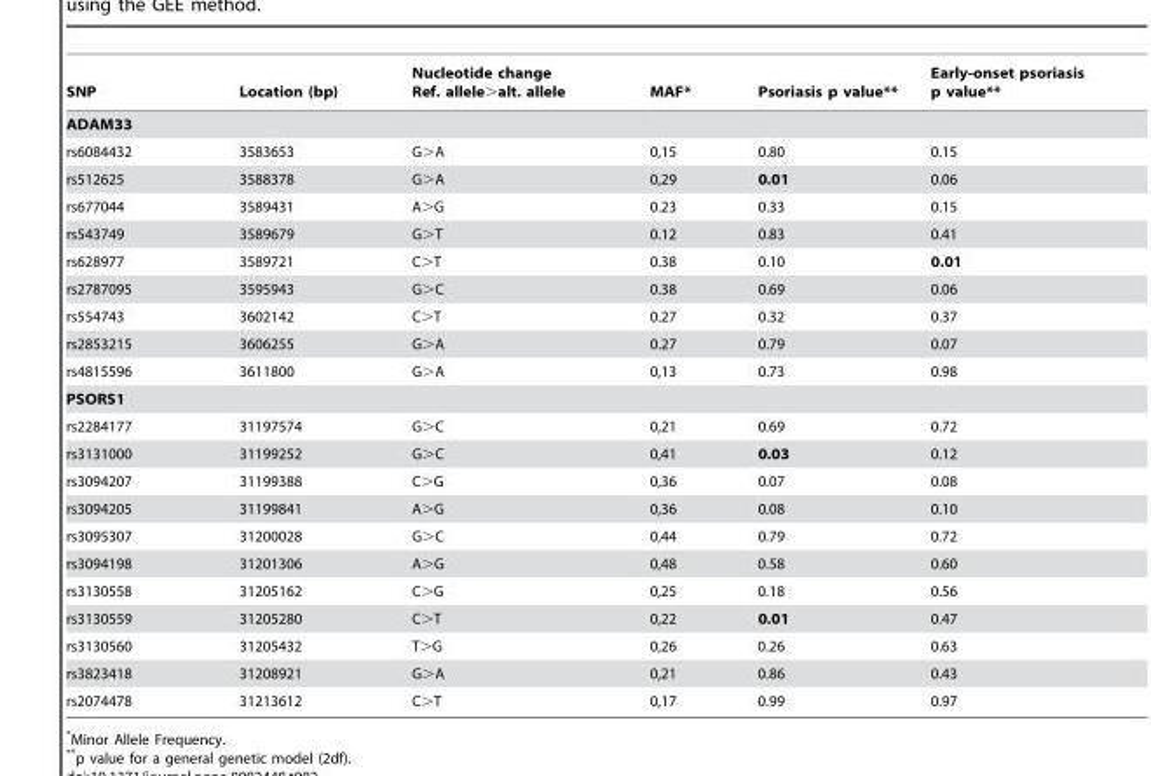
<table><thead><tr><td>SNP</td><td>Location (bp)</td><td>Nucleotide change Ref. allele&gt;alt. allele</td><td>MAF*</td><td>Psoriasis p value**</td><td>Early-onset psoriasis p value**</td></tr></thead><tbody><tr><td colspan="6">ADAM33</td></tr><tr><td>rs6084432</td><td>3583653</td><td>G&gt;A</td><td>0,15</td><td>0.80</td><td>0.15</td></tr><tr><td>rs512625</td><td>3588378</td><td>G&gt;A</td><td>0,29</td><td>0.01</td><td>0.06</td></tr><tr><td>rs677044</td><td>3589431</td><td>A&gt;G</td><td>0.23</td><td>0.33</td><td>0.15</td></tr><tr><td>rs543749</td><td>3589679</td><td>G&gt;T</td><td>0.12</td><td>0.83</td><td>0.41</td></tr><tr><td>rs628977</td><td>3589721</td><td>C&gt;T</td><td>0.38</td><td>0.10</td><td>0.01</td></tr><tr><td>rs2787095</td><td>3595943</td><td>G&gt;C</td><td>0.38</td><td>0.69</td><td>0.06</td></tr><tr><td>rs554743</td><td>3602142</td><td>C&gt;T</td><td>0.27</td><td>0.32</td><td>0.37</td></tr><tr><td>rs2853215</td><td>3606255</td><td>G&gt;A</td><td>0.27</td><td>0.79</td><td>0.07</td></tr><tr><td>rs4815596</td><td>3611800</td><td>G&gt;A</td><td>0,13</td><td>0.73</td><td>0.98</td></tr><tr><td colspan="6">PSORS1</td></tr><tr><td>rs2284177</td><td>31197574</td><td>G&gt;C</td><td>0,21</td><td>0.69</td><td>0.72</td></tr><tr><td>rs3131000</td><td>31199252</td><td>G&gt;C</td><td>0,41</td><td>0.03</td><td>0.12</td></tr><tr><td>rs3094207</td><td>31199388</td><td>C&gt;G</td><td>0,36</td><td>0.07</td><td>0.08</td></tr><tr><td>rs3094205</td><td>31199841</td><td>A&gt;G</td><td>0,36</td><td>0.08</td><td>0.10</td></tr><tr><td>rs3095307</td><td>31200028</td><td>G&gt;C</td><td>0,44</td><td>0.79</td><td>0.72</td></tr><tr><td>rs3094198</td><td>31201306</td><td>A&gt;G</td><td>0,48</td><td>0.58</td><td>0.60</td></tr><tr><td>rs3130558</td><td>31205162</td><td>C&gt;G</td><td>0,25</td><td>0.18</td><td>0.56</td></tr><tr><td>rs3130559</td><td>31205280</td><td>C&gt;T</td><td>0,22</td><td>0.01</td><td>0.47</td></tr><tr><td>rs3130560</td><td>31205432</td><td>T&gt;G</td><td>0,26</td><td>0.26</td><td>0.63</td></tr><tr><td>rs3823418</td><td>31208921</td><td>G&gt;A</td><td>0,21</td><td>0.86</td><td>0.43</td></tr><tr><td>rs2074478</td><td>31213612</td><td>C&gt;T</td><td>0,17</td><td>0.99</td><td>0.97</td></tr></tbody></table>